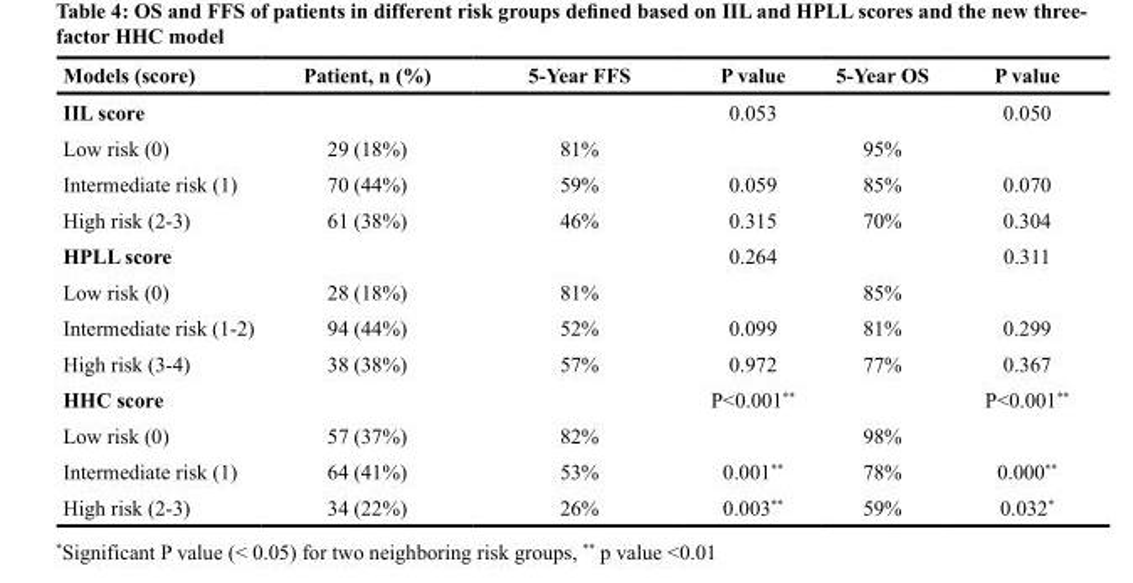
<table><thead><tr><td>Models (score)</td><td>Patient, n (%)</td><td>5-Year FFS</td><td>P value</td><td>5-Year OS</td><td>P value</td></tr></thead><tbody><tr><td>IIL score</td><td></td><td></td><td>0.053</td><td></td><td>0.050</td></tr><tr><td>Low risk (0)</td><td>29 (18%)</td><td>81%</td><td></td><td>95%</td><td></td></tr><tr><td>Intermediate risk (1)</td><td>70 (44%)</td><td>59%</td><td>0.059</td><td>85%</td><td>0.070</td></tr><tr><td>High risk (2-3)</td><td>61 (38%)</td><td>46%</td><td>0.315</td><td>70%</td><td>0.304</td></tr><tr><td>HPLL score</td><td></td><td></td><td>0.264</td><td></td><td>0.311</td></tr><tr><td>Low risk (0)</td><td>28 (18%)</td><td>81%</td><td></td><td>85%</td><td></td></tr><tr><td>Intermediate risk (1-2)</td><td>94 (44%)</td><td>52%</td><td>0.099</td><td>81%</td><td>0.299</td></tr><tr><td>High risk (3-4)</td><td>38 (38%)</td><td>57%</td><td>0.972</td><td>77%</td><td>0.367</td></tr><tr><td>HHC score</td><td></td><td></td><td>P&lt;0.001**</td><td></td><td>P&lt;0.001**</td></tr><tr><td>Low risk (0)</td><td>57 (37%)</td><td>82%</td><td></td><td>98%</td><td></td></tr><tr><td>Intermediate risk (1)</td><td>64 (41%)</td><td>53%</td><td>0.001**</td><td>78%</td><td>0.000**</td></tr><tr><td>High risk (2-3)</td><td>34 (22%)</td><td>26%</td><td>0.003**</td><td>59%</td><td>0.032*</td></tr></tbody></table>